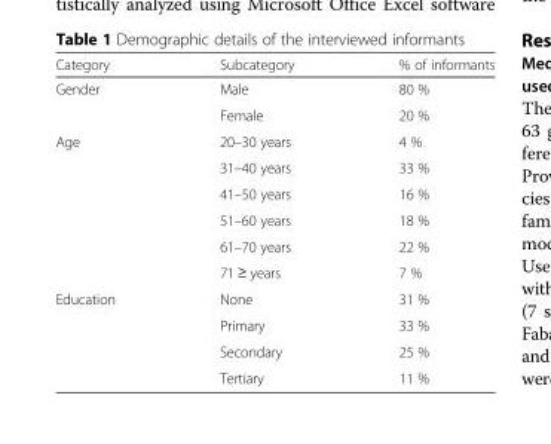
<table><thead><tr><td>Category</td><td>Subcategory</td><td>% of informants</td></tr></thead><tbody><tr><td rowspan="2">Gender</td><td>Male</td><td>80 %</td></tr><tr><td>Female</td><td>20 %</td></tr><tr><td rowspan="6">Age</td><td>20–30 years</td><td>4 %</td></tr><tr><td>31–40 years</td><td>33 %</td></tr><tr><td>41–50 years</td><td>16 %</td></tr><tr><td>51–60 years</td><td>18 %</td></tr><tr><td>61–70 years</td><td>22 %</td></tr><tr><td>71 ≥ years</td><td>7 %</td></tr><tr><td rowspan="4">Education</td><td>None</td><td>31 %</td></tr><tr><td>Primary</td><td>33 %</td></tr><tr><td>Secondary</td><td>25 %</td></tr><tr><td>Tertiary</td><td>11 %</td></tr></tbody></table>